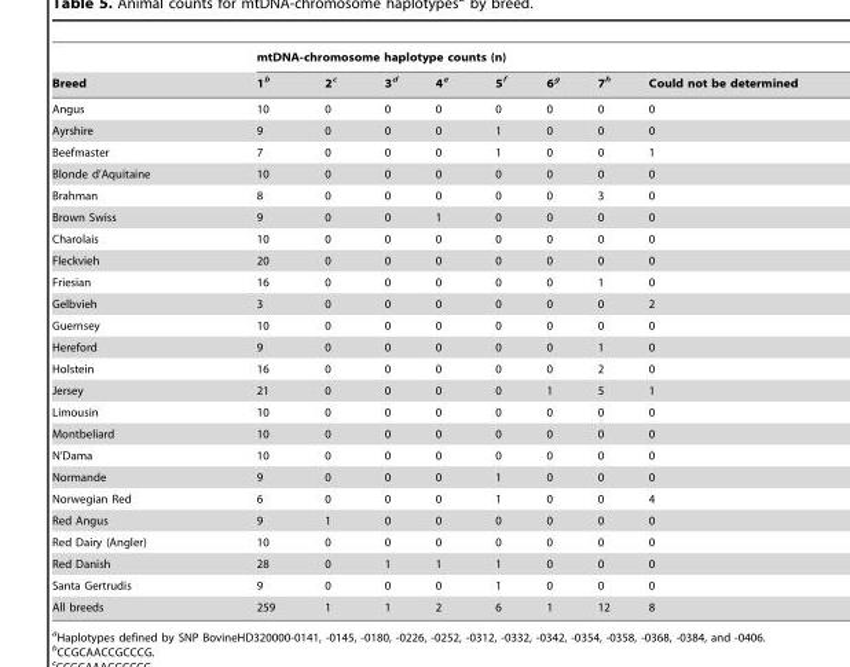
<table><thead><tr><td rowspan="2">Breed</td><td colspan="8">mtDNA-chromosome haplotype counts (n)</td></tr><tr><td>1<sup>b</sup></td><td>2<sup>c</sup></td><td>3<sup>d</sup></td><td>4<sup>e</sup></td><td>5<sup>f</sup></td><td>6<sup>g</sup></td><td>7<sup>h</sup></td><td>Could not be determined</td></tr></thead><tbody><tr><td>Angus</td><td>10</td><td>0</td><td>0</td><td>0</td><td>0</td><td>0</td><td>0</td><td>0</td></tr><tr><td>Ayrshire</td><td>9</td><td>0</td><td>0</td><td>0</td><td>1</td><td>0</td><td>0</td><td>0</td></tr><tr><td>Beefmaster</td><td>7</td><td>0</td><td>0</td><td>0</td><td>1</td><td>0</td><td>0</td><td>1</td></tr><tr><td>Blonde d’Aquitaine</td><td>10</td><td>0</td><td>0</td><td>0</td><td>0</td><td>0</td><td>0</td><td>0</td></tr><tr><td>Brahman</td><td>8</td><td>0</td><td>0</td><td>0</td><td>0</td><td>0</td><td>3</td><td>0</td></tr><tr><td>Brown Swiss</td><td>9</td><td>0</td><td>0</td><td>1</td><td>0</td><td>0</td><td>0</td><td>0</td></tr><tr><td>Charolais</td><td>10</td><td>0</td><td>0</td><td>0</td><td>0</td><td>0</td><td>0</td><td>0</td></tr><tr><td>Fleckvieh</td><td>20</td><td>0</td><td>0</td><td>0</td><td>0</td><td>0</td><td>0</td><td>0</td></tr><tr><td>Friesian</td><td>16</td><td>0</td><td>0</td><td>0</td><td>0</td><td>0</td><td>1</td><td>0</td></tr><tr><td>Gelbvieh</td><td>3</td><td>0</td><td>0</td><td>0</td><td>0</td><td>0</td><td>0</td><td>2</td></tr><tr><td>Guernsey</td><td>10</td><td>0</td><td>0</td><td>0</td><td>0</td><td>0</td><td>0</td><td>0</td></tr><tr><td>Hereford</td><td>9</td><td>0</td><td>0</td><td>0</td><td>0</td><td>0</td><td>1</td><td>0</td></tr><tr><td>Holstein</td><td>16</td><td>0</td><td>0</td><td>0</td><td>0</td><td>0</td><td>2</td><td>0</td></tr><tr><td>Jersey</td><td>21</td><td>0</td><td>0</td><td>0</td><td>0</td><td>1</td><td>5</td><td>1</td></tr><tr><td>Limousin</td><td>10</td><td>0</td><td>0</td><td>0</td><td>0</td><td>0</td><td>0</td><td>0</td></tr><tr><td>Montbeliard</td><td>10</td><td>0</td><td>0</td><td>0</td><td>0</td><td>0</td><td>0</td><td>0</td></tr><tr><td>N’Dama</td><td>10</td><td>0</td><td>0</td><td>0</td><td>0</td><td>0</td><td>0</td><td>0</td></tr><tr><td>Normande</td><td>9</td><td>0</td><td>0</td><td>0</td><td>1</td><td>0</td><td>0</td><td>0</td></tr><tr><td>Norwegian Red</td><td>6</td><td>0</td><td>0</td><td>0</td><td>1</td><td>0</td><td>0</td><td>4</td></tr><tr><td>Red Angus</td><td>9</td><td>1</td><td>0</td><td>0</td><td>0</td><td>0</td><td>0</td><td>0</td></tr><tr><td>Red Dairy (Angler)</td><td>10</td><td>0</td><td>0</td><td>0</td><td>0</td><td>0</td><td>0</td><td>0</td></tr><tr><td>Red Danish</td><td>28</td><td>0</td><td>1</td><td>1</td><td>1</td><td>0</td><td>0</td><td>0</td></tr><tr><td>Santa Gertrudis</td><td>9</td><td>0</td><td>0</td><td>0</td><td>1</td><td>0</td><td>0</td><td>0</td></tr><tr><td>All breeds</td><td>259</td><td>1</td><td>1</td><td>2</td><td>6</td><td>1</td><td>12</td><td>8</td></tr></tbody></table>